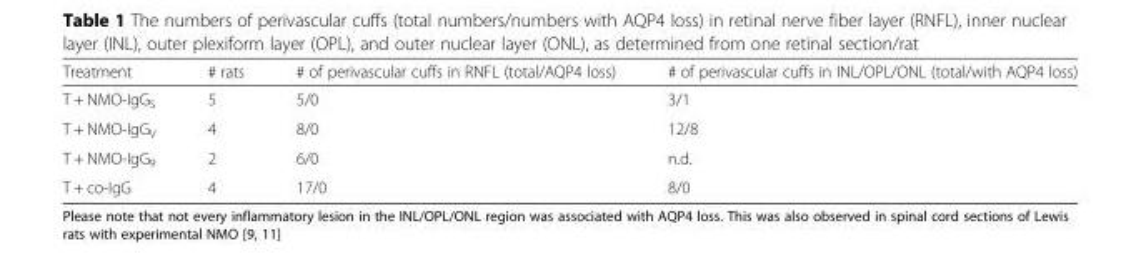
<table><thead><tr><td>Treatment</td><td># rats</td><td># of perivascular cuffs in RNFL (total/AQP4 loss)</td><td># of perivascular cuffs in INL/OPL/ONL (total/with AQP4 loss)</td></tr></thead><tbody><tr><td>T + NMO-IgG<sub>S</sub></td><td>5</td><td>5/0</td><td>3/1</td></tr><tr><td>T + NMO-IgG<sub>V</sub></td><td>4</td><td>8/0</td><td>12/8</td></tr><tr><td>T + NMO-IgG<sub>9</sub></td><td>2</td><td>6/0</td><td>n.d.</td></tr><tr><td>T + co-IgG</td><td>4</td><td>17/0</td><td>8/0</td></tr></tbody></table>